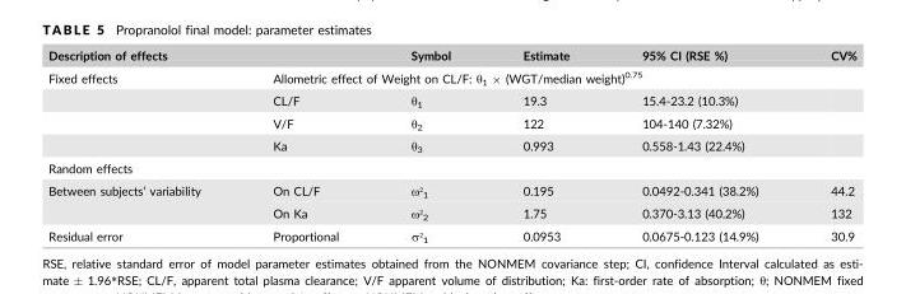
<table><thead><tr><td colspan="2">Description of effects</td><td>Symbol</td><td>Estimate</td><td>95% CI (RSE %)</td><td>CV%</td></tr><tr><td rowspan="2">Fixed effects</td><td colspan="5">Allometric effect of Weight on CL/F: θ<sub>1</sub> × (WGT/median weight)<sup>0.75</sup></td></tr><tr><td>CL/F</td><td>θ<sub>1</sub></td><td>19.3</td><td>15.4-23.2 (10.3%)</td><td></td></tr></thead><tbody><tr><td></td><td>V/F</td><td>θ<sub>2</sub></td><td>122</td><td>104-140 (7.32%)</td><td></td></tr><tr><td></td><td>Ka</td><td>θ<sub>3</sub></td><td>0.993</td><td>0.558-1.43 (22.4%)</td><td></td></tr><tr><td colspan="6">Random effects</td></tr><tr><td rowspan="2">Between subjects’ variability</td><td>On CL/F</td><td>ω²<sub>1</sub></td><td>0.195</td><td>0.0492-0.341 (38.2%)</td><td>44.2</td></tr><tr><td>On Ka</td><td>ω²<sub>2</sub></td><td>1.75</td><td>0.370-3.13 (40.2%)</td><td>132</td></tr><tr><td>Residual error</td><td>Proportional</td><td>σ²<sub>1</sub></td><td>0.0953</td><td>0.0675-0.123 (14.9%)</td><td>30.9</td></tr></tbody></table>